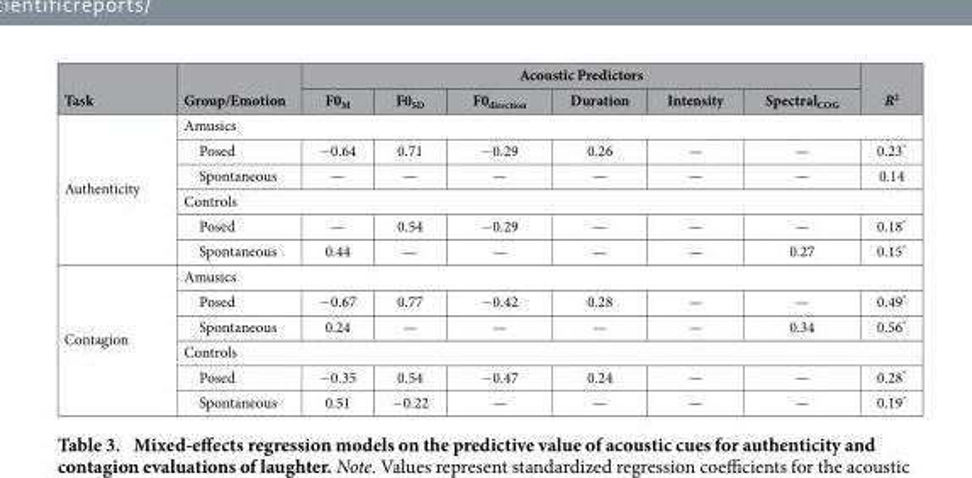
<table><thead><tr><td rowspan="2">Task</td><td rowspan="2">Group/Emotion</td><td colspan="6">Acoustic Predictors</td><td rowspan="2">R<sup>2</sup></td></tr><tr><td>F0<sub>M</sub></td><td>F0<sub>SD</sub></td><td>F0<sub>direction</sub></td><td>Duration</td><td>Intensity</td><td>Spectral<sub>COG</sub></td></tr></thead><tbody><tr><td rowspan="6">Authenticity</td><td colspan="8">Amusics</td></tr><tr><td>Posed</td><td>− 0.64</td><td>0.71</td><td>− 0.29</td><td>0.26</td><td>—</td><td>—</td><td>0.23*</td></tr><tr><td>Spontaneous</td><td>—</td><td>—</td><td>—</td><td>—</td><td>—</td><td>—</td><td>0.14</td></tr><tr><td colspan="8">Controls</td></tr><tr><td>Posed</td><td>—</td><td>0.54</td><td>− 0.29</td><td>—</td><td>—</td><td>—</td><td>0.18*</td></tr><tr><td>Spontaneous</td><td>0.44</td><td>—</td><td>—</td><td>—</td><td>—</td><td>0.27</td><td>0.15*</td></tr><tr><td rowspan="6">Contagion</td><td colspan="8">Amusics</td></tr><tr><td>Posed</td><td>− 0.67</td><td>0.77</td><td>− 0.42</td><td>0.28</td><td>—</td><td>—</td><td>0.49*</td></tr><tr><td>Spontaneous</td><td>0.24</td><td>—</td><td>—</td><td>—</td><td>—</td><td>0.34</td><td>0.56*</td></tr><tr><td colspan="8">Controls</td></tr><tr><td>Posed</td><td>− 0.35</td><td>0.54</td><td>− 0.47</td><td>0.24</td><td>—</td><td>—</td><td>0.28*</td></tr><tr><td>Spontaneous</td><td>0.51</td><td>− 0.22</td><td>—</td><td>—</td><td>—</td><td>—</td><td>0.19*</td></tr></tbody></table>